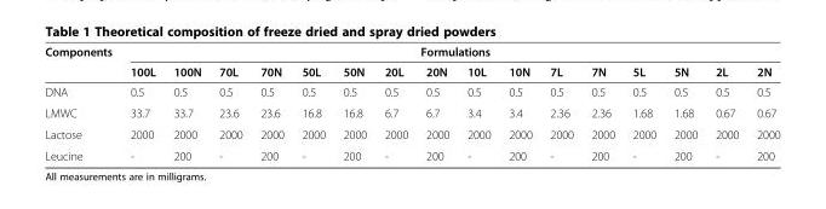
<table><thead><tr><td rowspan="2">Components</td><td colspan="16">Formulations</td></tr><tr><td>100L</td><td>100N</td><td>70L</td><td>70N</td><td>50L</td><td>50N</td><td>20L</td><td>20N</td><td>10L</td><td>10N</td><td>7L</td><td>7N</td><td>5L</td><td>5N</td><td>2L</td><td>2N</td></tr></thead><tbody><tr><td>DNA</td><td>0.5</td><td>0.5</td><td>0.5</td><td>0.5</td><td>0.5</td><td>0.5</td><td>0.5</td><td>0.5</td><td>0.5</td><td>0.5</td><td>0.5</td><td>0.5</td><td>0.5</td><td>0.5</td><td>0.5</td><td>0.5</td></tr><tr><td>LMWC</td><td>33.7</td><td>33.7</td><td>23.6</td><td>23.6</td><td>16.8</td><td>16.8</td><td>6.7</td><td>6.7</td><td>3.4</td><td>3.4</td><td>2.36</td><td>2.36</td><td>1.68</td><td>1.68</td><td>0.67</td><td>0.67</td></tr><tr><td>Lactose</td><td>2000</td><td>2000</td><td>2000</td><td>2000</td><td>2000</td><td>2000</td><td>2000</td><td>2000</td><td>2000</td><td>2000</td><td>2000</td><td>2000</td><td>2000</td><td>2000</td><td>2000</td><td>2000</td></tr><tr><td>Leucine</td><td>-</td><td>200</td><td>-</td><td>200</td><td>-</td><td>200</td><td>-</td><td>200</td><td>-</td><td>200</td><td>-</td><td>200</td><td>-</td><td>200</td><td>-</td><td>200</td></tr></tbody></table>